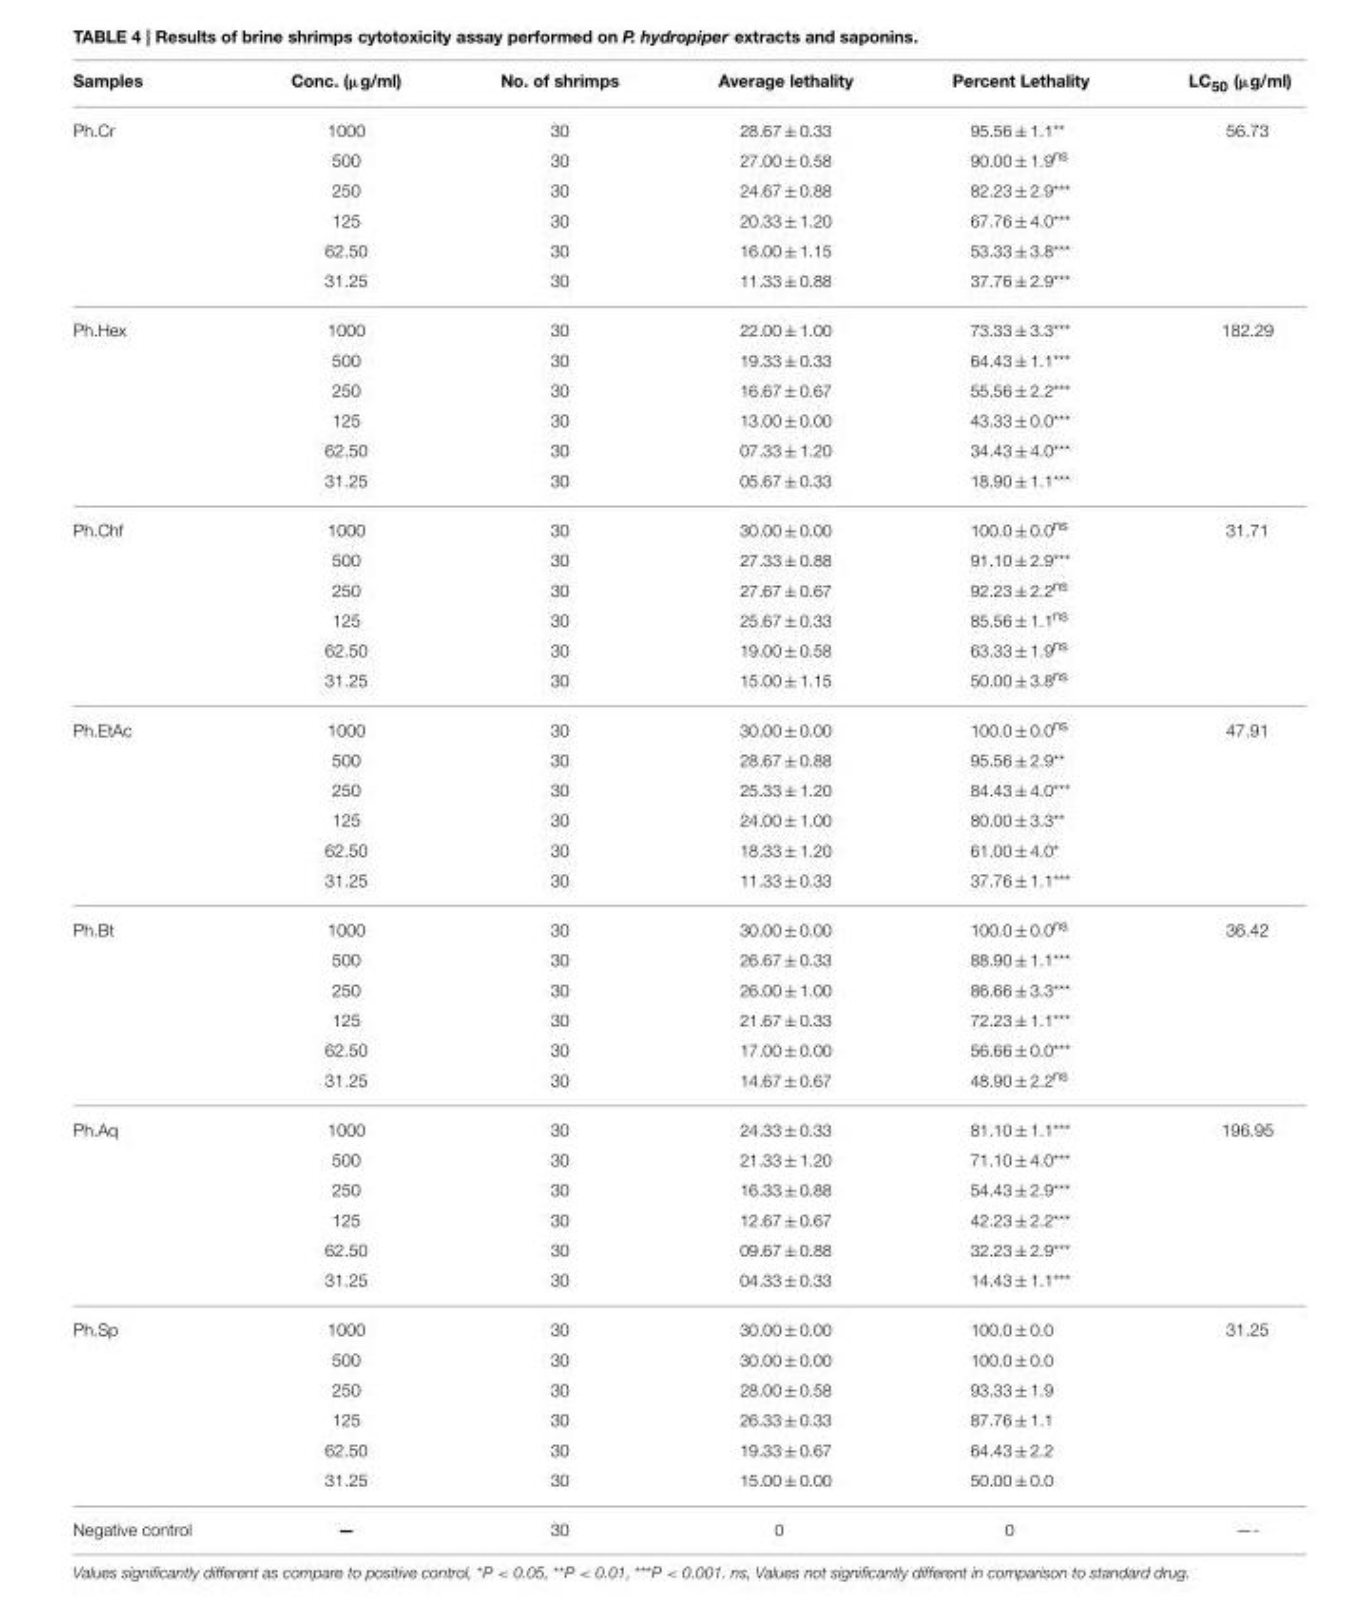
<table><thead><tr><td>Samples</td><td>Conc. (µg/ml)</td><td>No. of shrimps</td><td>Average lethality</td><td>Percent Lethality</td><td>LC<sub>50</sub> (µg/ml)</td></tr></thead><tbody><tr><td rowspan="6">Ph.Cr</td><td>1000</td><td>30</td><td>28.67 ± 0.33</td><td>95.56 ± 1.1**</td><td>56.73</td></tr><tr><td>500</td><td>30</td><td>27.00 ± 0.58</td><td>90.00 ± 1.9<sup>ns</sup></td><td></td></tr><tr><td>250</td><td>30</td><td>24.67 ± 0.88</td><td>82.23 ± 2.9***</td><td></td></tr><tr><td>125</td><td>30</td><td>20.33 ± 1.20</td><td>67.76 ± 4.0***</td><td></td></tr><tr><td>62.50</td><td>30</td><td>16.00 ± 1.15</td><td>53.33 ± 3.8***</td><td></td></tr><tr><td>31.25</td><td>30</td><td>11.33 ± 0.88</td><td>37.76 ± 2.9***</td><td></td></tr><tr><td rowspan="6">Ph.Hex</td><td>1000</td><td>30</td><td>22.00 ± 1.00</td><td>73.33 ± 3.3***</td><td>182.29</td></tr><tr><td>500</td><td>30</td><td>19.33 ± 0.33</td><td>64.43 ± 1.1***</td><td></td></tr><tr><td>250</td><td>30</td><td>16.67 ± 0.67</td><td>55.56 ± 2.2***</td><td></td></tr><tr><td>125</td><td>30</td><td>13.00 ± 0.00</td><td>43.33 ± 0.0***</td><td></td></tr><tr><td>62.50</td><td>30</td><td>07.33 ± 1.20</td><td>34.43 ± 4.0***</td><td></td></tr><tr><td>31.25</td><td>30</td><td>05.67 ± 0.33</td><td>18.90 ± 1.1***</td><td></td></tr><tr><td rowspan="6">Ph.Chf</td><td>1000</td><td>30</td><td>30.00 ± 0.00</td><td>100.0 ± 0.0<sup>ns</sup></td><td>31.71</td></tr><tr><td>500</td><td>30</td><td>27.33 ± 0.88</td><td>91.10 ± 2.9***</td><td></td></tr><tr><td>250</td><td>30</td><td>27.67 ± 0.67</td><td>92.23 ± 2.2<sup>ns</sup></td><td></td></tr><tr><td>125</td><td>30</td><td>25.67 ± 0.33</td><td>85.56 ± 1.1<sup>ns</sup></td><td></td></tr><tr><td>62.50</td><td>30</td><td>19.00 ± 0.58</td><td>63.33 ± 1.9<sup>ns</sup></td><td></td></tr><tr><td>31.25</td><td>30</td><td>15.00 ± 1.15</td><td>50.00 ± 3.8<sup>ns</sup></td><td></td></tr><tr><td rowspan="6">Ph.EtAc</td><td>1000</td><td>30</td><td>30.00 ± 0.00</td><td>100.0 ± 0.0<sup>ns</sup></td><td>47.91</td></tr><tr><td>500</td><td>30</td><td>28.67 ± 0.88</td><td>95.56 ± 2.9**</td><td></td></tr><tr><td>250</td><td>30</td><td>25.33 ± 1.20</td><td>84.43 ± 4.0***</td><td></td></tr><tr><td>125</td><td>30</td><td>24.00 ± 1.00</td><td>80.00 ± 3.3**</td><td></td></tr><tr><td>62.50</td><td>30</td><td>18.33 ± 1.20</td><td>61.00 ± 4.0*</td><td></td></tr><tr><td>31.25</td><td>30</td><td>11.33 ± 0.33</td><td>37.76 ± 1.1***</td><td></td></tr><tr><td rowspan="6">Ph.Bt</td><td>1000</td><td>30</td><td>30.00 ± 0.00</td><td>100.0 ± 0.0<sup>ns</sup></td><td>36.42</td></tr><tr><td>500</td><td>30</td><td>26.67 ± 0.33</td><td>88.90 ± 1.1***</td><td></td></tr><tr><td>250</td><td>30</td><td>26.00 ± 1.00</td><td>86.66 ± 3.3***</td><td></td></tr><tr><td>125</td><td>30</td><td>21.67 ± 0.33</td><td>72.23 ± 1.1***</td><td></td></tr><tr><td>62.50</td><td>30</td><td>17.00 ± 0.00</td><td>56.66 ± 0.0***</td><td></td></tr><tr><td>31.25</td><td>30</td><td>14.67 ± 0.67</td><td>48.90 ± 2.2<sup>ns</sup></td><td></td></tr><tr><td rowspan="6">Ph.Aq</td><td>1000</td><td>30</td><td>24.33 ± 0.33</td><td>81.10 ± 1.1***</td><td>196.95</td></tr><tr><td>500</td><td>30</td><td>21.33 ± 1.20</td><td>71.10 ± 4.0***</td><td></td></tr><tr><td>250</td><td>30</td><td>16.33 ± 0.88</td><td>54.43 ± 2.9***</td><td></td></tr><tr><td>125</td><td>30</td><td>12.67 ± 0.67</td><td>42.23 ± 2.2***</td><td></td></tr><tr><td>62.50</td><td>30</td><td>09.67 ± 0.88</td><td>32.23 ± 2.9***</td><td></td></tr><tr><td>31.25</td><td>30</td><td>04.33 ± 0.33</td><td>14.43 ± 1.1***</td><td></td></tr><tr><td rowspan="6">Ph.Sp</td><td>1000</td><td>30</td><td>30.00 ± 0.00</td><td>100.0 ± 0.0</td><td>31.25</td></tr><tr><td>500</td><td>30</td><td>30.00 ± 0.00</td><td>100.0 ± 0.0</td><td></td></tr><tr><td>250</td><td>30</td><td>28.00 ± 0.58</td><td>93.33 ± 1.9</td><td></td></tr><tr><td>125</td><td>30</td><td>26.33 ± 0.33</td><td>87.76 ± 1.1</td><td></td></tr><tr><td>62.50</td><td>30</td><td>19.33 ± 0.67</td><td>64.43 ± 2.2</td><td></td></tr><tr><td>31.25</td><td>30</td><td>15.00 ± 0.00</td><td>50.00 ± 0.0</td><td></td></tr><tr><td>Negative control</td><td>—</td><td>30</td><td>0</td><td>0</td><td>—-</td></tr></tbody></table>